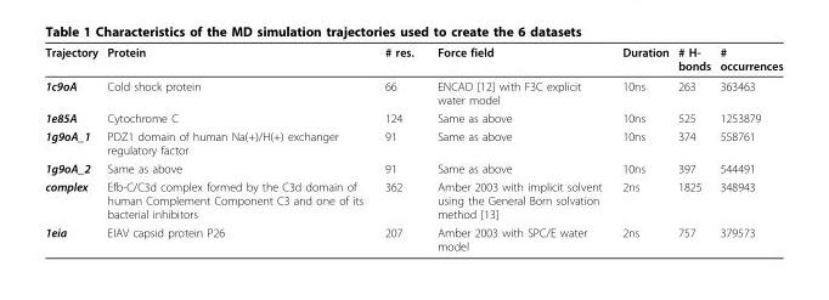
<table><thead><tr><td>Trajectory</td><td>Protein</td><td># res.</td><td>Force field</td><td>Duration</td><td># H- bonds</td><td># occurrences</td></tr></thead><tbody><tr><td>1c9oA</td><td>Cold shock protein</td><td>66</td><td>ENCAD [12] with F3C explicit water model</td><td>10ns</td><td>263</td><td>363463</td></tr><tr><td>1e85A</td><td>Cytochrome C</td><td>124</td><td>Same as above</td><td>10ns</td><td>525</td><td>1253879</td></tr><tr><td>1g9oA_1</td><td>PDZ1 domain of human Na(+)/H(+) exchanger regulatory factor</td><td>91</td><td>Same as above</td><td>10ns</td><td>374</td><td>558761</td></tr><tr><td>1g9oA_2</td><td>Same as above</td><td>91</td><td>Same as above</td><td>10ns</td><td>397</td><td>544491</td></tr><tr><td>complex</td><td>Efb-C/C3d complex formed by the C3d domain of human Complement Component C3 and one of its bacterial inhibitors</td><td>362</td><td>Amber 2003 with implicit solvent using the General Born solvation method [13]</td><td>2ns</td><td>1825</td><td>348943</td></tr><tr><td>1eia</td><td>EIAV capsid protein P26</td><td>207</td><td>Amber 2003 with SPC/E water model</td><td>2ns</td><td>757</td><td>379573</td></tr></tbody></table>